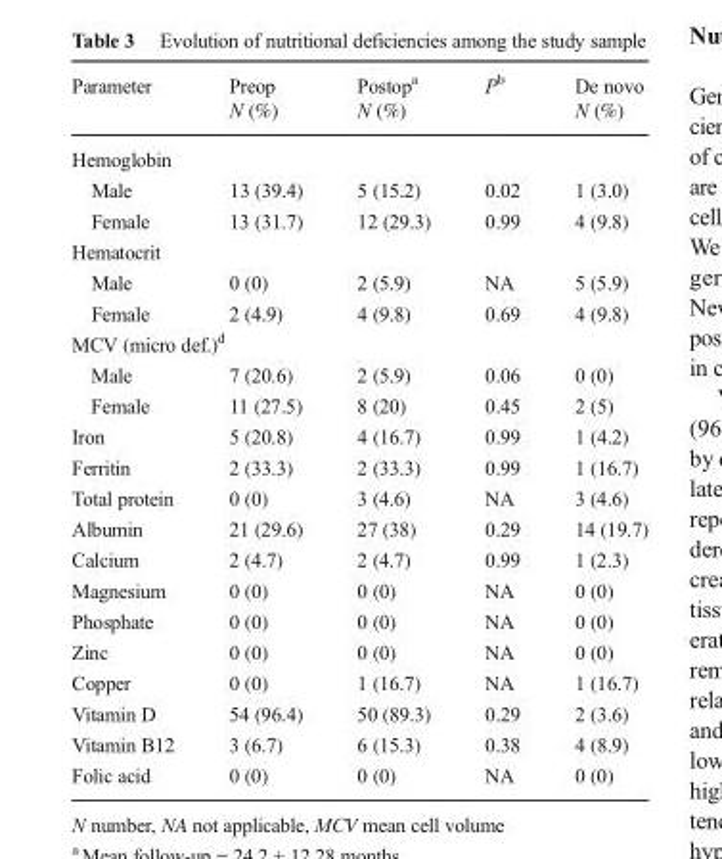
<table><thead><tr><td>Parameter</td><td>Preop N (%)</td><td>Postop<sup>a</sup> N (%)</td><td>P<sup>b</sup></td><td>De novo N (%)</td></tr></thead><tbody><tr><td colspan="5">Hemoglobin</td></tr><tr><td>Male</td><td>13 (39.4)</td><td>5 (15.2)</td><td>0.02</td><td>1 (3.0)</td></tr><tr><td>Female</td><td>13 (31.7)</td><td>12 (29.3)</td><td>0.99</td><td>4 (9.8)</td></tr><tr><td colspan="5">Hematocrit</td></tr><tr><td>Male</td><td>0 (0)</td><td>2 (5.9)</td><td>NA</td><td>5 (5.9)</td></tr><tr><td>Female</td><td>2 (4.9)</td><td>4 (9.8)</td><td>0.69</td><td>4 (9.8)</td></tr><tr><td colspan="5">MCV (micro def.)<sup>d</sup></td></tr><tr><td>Male</td><td>7 (20.6)</td><td>2 (5.9)</td><td>0.06</td><td>0 (0)</td></tr><tr><td>Female</td><td>11 (27.5)</td><td>8 (20)</td><td>0.45</td><td>2 (5)</td></tr><tr><td>Iron</td><td>5 (20.8)</td><td>4 (16.7)</td><td>0.99</td><td>1 (4.2)</td></tr><tr><td>Ferritin</td><td>2 (33.3)</td><td>2 (33.3)</td><td>0.99</td><td>1 (16.7)</td></tr><tr><td>Total protein</td><td>0 (0)</td><td>3 (4.6)</td><td>NA</td><td>3 (4.6)</td></tr><tr><td>Albumin</td><td>21 (29.6)</td><td>27 (38)</td><td>0.29</td><td>14 (19.7)</td></tr><tr><td>Calcium</td><td>2 (4.7)</td><td>2 (4.7)</td><td>0.99</td><td>1 (2.3)</td></tr><tr><td>Magnesium</td><td>0 (0)</td><td>0 (0)</td><td>NA</td><td>0 (0)</td></tr><tr><td>Phosphate</td><td>0 (0)</td><td>0 (0)</td><td>NA</td><td>0 (0)</td></tr><tr><td>Zinc</td><td>0 (0)</td><td>0 (0)</td><td>NA</td><td>0 (0)</td></tr><tr><td>Copper</td><td>0 (0)</td><td>1 (16.7)</td><td>NA</td><td>1 (16.7)</td></tr><tr><td>Vitamin D</td><td>54 (96.4)</td><td>50 (89.3)</td><td>0.29</td><td>2 (3.6)</td></tr><tr><td>Vitamin B12</td><td>3 (6.7)</td><td>6 (15.3)</td><td>0.38</td><td>4 (8.9)</td></tr><tr><td>Folic acid</td><td>0 (0)</td><td>0 (0)</td><td>NA</td><td>0 (0)</td></tr></tbody></table>